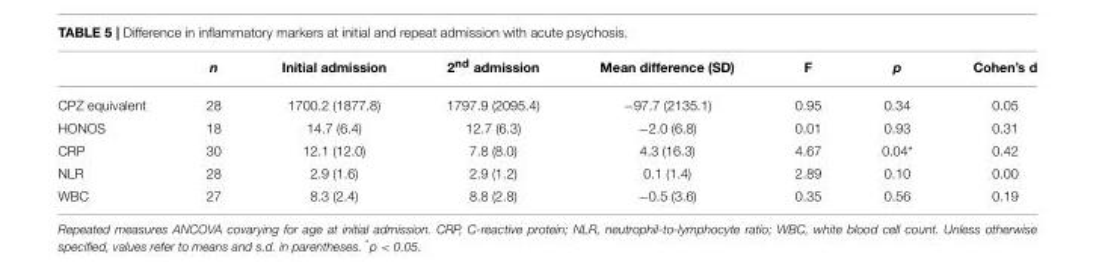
<table><thead><tr><td></td><td>n</td><td>Initial admission</td><td>2<sup>nd</sup> admission</td><td>Mean difference (SD)</td><td>F</td><td>p</td><td>Cohen’s d</td></tr></thead><tbody><tr><td>CPZ equivalent</td><td>28</td><td>1700.2 (1877.8)</td><td>1797.9 (2095.4)</td><td>−97.7 (2135.1)</td><td>0.95</td><td>0.34</td><td>0.05</td></tr><tr><td>HONOS</td><td>18</td><td>14.7 (6.4)</td><td>12.7 (6.3)</td><td>−2.0 (6.8)</td><td>0.01</td><td>0.93</td><td>0.31</td></tr><tr><td>CRP</td><td>30</td><td>12.1 (12.0)</td><td>7.8 (8.0)</td><td>4.3 (16.3)</td><td>4.67</td><td>0.04*</td><td>0.42</td></tr><tr><td>NLR</td><td>28</td><td>2.9 (1.6)</td><td>2.9 (1.2)</td><td>0.1 (1.4)</td><td>2.89</td><td>0.10</td><td>0.00</td></tr><tr><td>WBC</td><td>27</td><td>8.3 (2.4)</td><td>8.8 (2.8)</td><td>−0.5 (3.6)</td><td>0.35</td><td>0.56</td><td>0.19</td></tr></tbody></table>